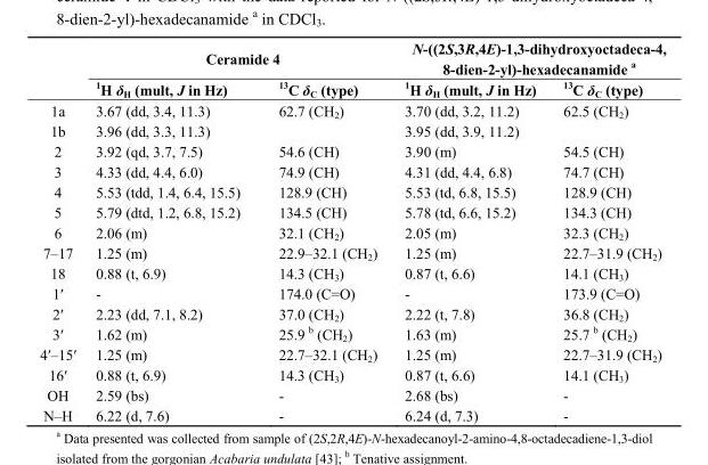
<table><thead><tr><td rowspan="2"></td><td colspan="2">Ceramide 4</td><td colspan="2">N-((2S,3R,4E)-1,3-dihydroxyoctadeca-4, 8-dien-2-yl)-hexadecanamide <sup>a</sup></td></tr><tr><td><sup>1</sup>H δ<sub>H</sub> (mult, J in Hz)</td><td><sup>13</sup>C δ<sub>C</sub> (type)</td><td><sup>1</sup>H δ<sub>H</sub> (mult, J in Hz)</td><td><sup>13</sup>C δ<sub>C</sub> (type)</td></tr></thead><tbody><tr><td>1a</td><td>3.67 (dd, 3.4, 11.3)</td><td rowspan="2">62.7 (CH<sub>2</sub>)</td><td>3.70 (dd, 3.2, 11.2)</td><td rowspan="2">62.5 (CH<sub>2</sub>)</td></tr><tr><td>1b</td><td>3.96 (dd, 3.3, 11.3)</td><td>3.95 (dd, 3.9, 11.2)</td></tr><tr><td>2</td><td>3.92 (qd, 3.7, 7.5)</td><td>54.6 (CH)</td><td>3.90 (m)</td><td>54.5 (CH)</td></tr><tr><td>3</td><td>4.33 (dd, 4.4, 6.0)</td><td>74.9 (CH)</td><td>4.31 (dd, 4.4, 6.8)</td><td>74.7 (CH)</td></tr><tr><td>4</td><td>5.53 (tdd, 1.4, 6.4, 15.5)</td><td>128.9 (CH)</td><td>5.53 (td, 6.8, 15.5)</td><td>128.9 (CH)</td></tr><tr><td>5</td><td>5.79 (dtd, 1.2, 6.8, 15.2)</td><td>134.5 (CH)</td><td>5.78 (td, 6.6, 15.2)</td><td>134.3 (CH)</td></tr><tr><td>6</td><td>2.06 (m)</td><td>32.1 (CH<sub>2</sub>)</td><td>2.05 (m)</td><td>32.3 (CH<sub>2</sub>)</td></tr><tr><td>7–17</td><td>1.25 (m)</td><td>22.9–32.1 (CH<sub>2</sub>)</td><td>1.25 (m)</td><td>22.7–31.9 (CH<sub>2</sub>)</td></tr><tr><td>18</td><td>0.88 (t, 6.9)</td><td>14.3 (CH<sub>3</sub>)</td><td>0.87 (t, 6.6)</td><td>14.1 (CH<sub>3</sub>)</td></tr><tr><td>1′</td><td>-</td><td>174.0 (C=O)</td><td>-</td><td>173.9 (C=O)</td></tr><tr><td>2′</td><td>2.23 (dd, 7.1, 8.2)</td><td>37.0 (CH<sub>2</sub>)</td><td>2.22 (t, 7.8)</td><td>36.8 (CH<sub>2</sub>)</td></tr><tr><td>3′</td><td>1.62 (m)</td><td>25.9 <sup>b</sup> (CH<sub>2</sub>)</td><td>1.63 (m)</td><td>25.7 <sup>b</sup> (CH<sub>2</sub>)</td></tr><tr><td>4′–15′</td><td>1.25 (m)</td><td>22.7–32.1 (CH<sub>2</sub>)</td><td>1.25 (m)</td><td>22.7–31.9 (CH<sub>2</sub>)</td></tr><tr><td>16′</td><td>0.88 (t, 6.9)</td><td>14.3 (CH<sub>3</sub>)</td><td>0.87 (t, 6.6)</td><td>14.1 (CH<sub>3</sub>)</td></tr><tr><td>OH</td><td>2.59 (bs)</td><td>-</td><td>2.68 (bs)</td><td>-</td></tr><tr><td>N–H</td><td>6.22 (d, 7.6)</td><td>-</td><td>6.24 (d, 7.3)</td><td>-</td></tr></tbody></table>